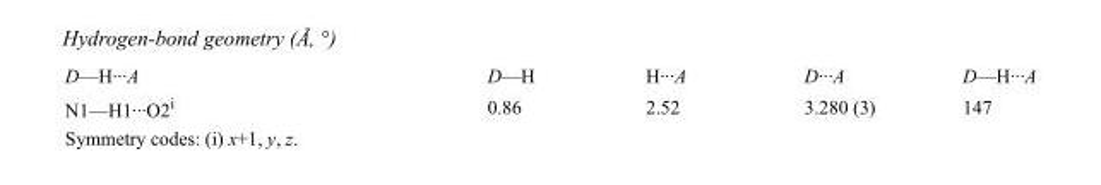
<table><tbody><tr><td>D—H···A</td><td>D—H</td><td>H···A</td><td>D···A</td><td>D—H···A</td></tr><tr><td>N1—H1···O2<sup>i</sup></td><td>0.86</td><td>2.52</td><td>3.280 (3)</td><td>147</td></tr></tbody></table>